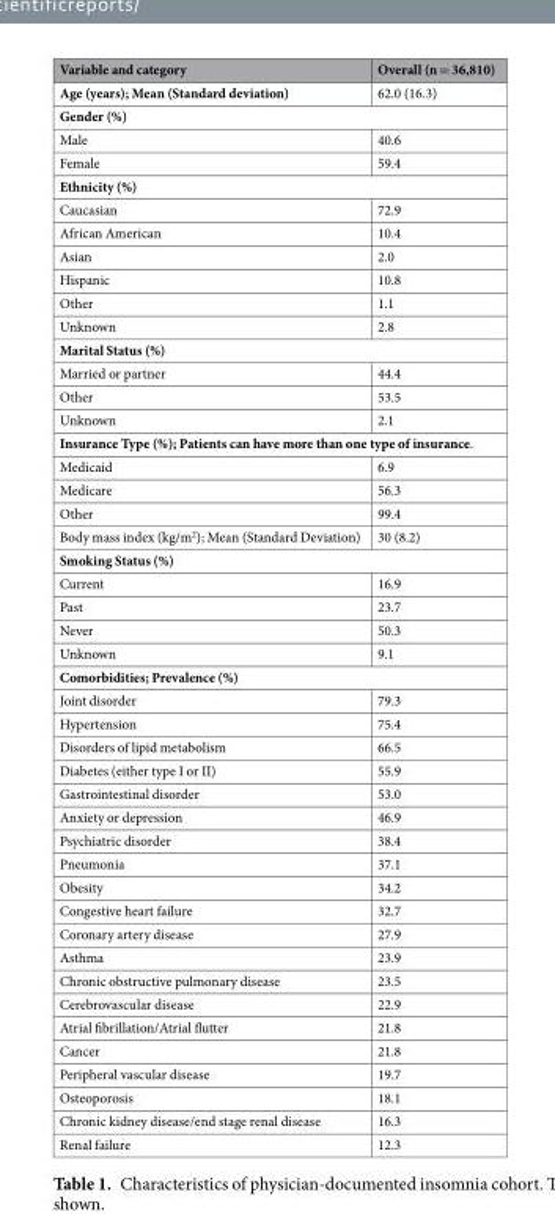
<table><thead><tr><td>Variable and category</td><td>Overall (n = 36,810)</td></tr></thead><tbody><tr><td>Age (years); Mean (Standard deviation)</td><td>62.0 (16.3)</td></tr><tr><td colspan="2">Gender (%)</td></tr><tr><td>Male</td><td>40.6</td></tr><tr><td>Female</td><td>59.4</td></tr><tr><td colspan="2">Ethnicity (%)</td></tr><tr><td>Caucasian</td><td>72.9</td></tr><tr><td>African American</td><td>10.4</td></tr><tr><td>Asian</td><td>2.0</td></tr><tr><td>Hispanic</td><td>10.8</td></tr><tr><td>Other</td><td>1.1</td></tr><tr><td>Unknown</td><td>2.8</td></tr><tr><td colspan="2">Marital Status (%)</td></tr><tr><td>Married or partner</td><td>44.4</td></tr><tr><td>Other</td><td>53.5</td></tr><tr><td>Unknown</td><td>2.1</td></tr><tr><td colspan="2">Insurance Type (%); Patients can have more than one type of insurance.</td></tr><tr><td>Medicaid</td><td>6.9</td></tr><tr><td>Medicare</td><td>56.3</td></tr><tr><td>Other</td><td>99.4</td></tr><tr><td>Body mass index (kg/m<sup>2</sup>); Mean (Standard Deviation)</td><td>30 (8.2)</td></tr><tr><td colspan="2">Smoking Status (%)</td></tr><tr><td>Current</td><td>16.9</td></tr><tr><td>Past</td><td>23.7</td></tr><tr><td>Never</td><td>50.3</td></tr><tr><td>Unknown</td><td>9.1</td></tr><tr><td colspan="2">Comorbidities; Prevalence (%)</td></tr><tr><td>Joint disorder</td><td>79.3</td></tr><tr><td>Hypertension</td><td>75.4</td></tr><tr><td>Disorders of lipid metabolism</td><td>66.5</td></tr><tr><td>Diabetes (either type I or II)</td><td>55.9</td></tr><tr><td>Gastrointestinal disorder</td><td>53.0</td></tr><tr><td>Anxiety or depression</td><td>46.9</td></tr><tr><td>Psychiatric disorder</td><td>38.4</td></tr><tr><td>Pneumonia</td><td>37.1</td></tr><tr><td>Obesity</td><td>34.2</td></tr><tr><td>Congestive heart failure</td><td>32.7</td></tr><tr><td>Coronary artery disease</td><td>27.9</td></tr><tr><td>Asthma</td><td>23.9</td></tr><tr><td>Chronic obstructive pulmonary disease</td><td>23.5</td></tr><tr><td>Cerebrovascular disease</td><td>22.9</td></tr><tr><td>Atrial fibrillation/Atrial flutter</td><td>21.8</td></tr><tr><td>Cancer</td><td>21.8</td></tr><tr><td>Peripheral vascular disease</td><td>19.7</td></tr><tr><td>Osteoporosis</td><td>18.1</td></tr><tr><td>Chronic kidney disease/end stage renal disease</td><td>16.3</td></tr><tr><td>Renal failure</td><td>12.3</td></tr></tbody></table>